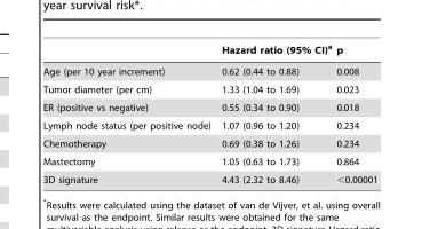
<table><thead><tr><td></td><td>Hazard ratio (95% CI)<sup>a</sup></td><td>p</td></tr></thead><tbody><tr><td>Age (per 10 year increment)</td><td>0.62 (0.44 to 0.88)</td><td>0.008</td></tr><tr><td>Tumor diameter (per cm)</td><td>1.33 (1.04 to 1.69)</td><td>0.023</td></tr><tr><td>ER (positive vs negative)</td><td>0.55 (0.34 to 0.90)</td><td>0.018</td></tr><tr><td>Lymph node status (per positive node)</td><td>1.07 (0.96 to 1.20)</td><td>0.234</td></tr><tr><td>Chemotherapy</td><td>0.69 (0.38 to 1.26)</td><td>0.234</td></tr><tr><td>Mastectomy</td><td>1.05 (0.63 to 1.73)</td><td>0.864</td></tr><tr><td>3D signature</td><td>4.43 (2.32 to 8.46)</td><td>&lt;0.00001</td></tr></tbody></table>